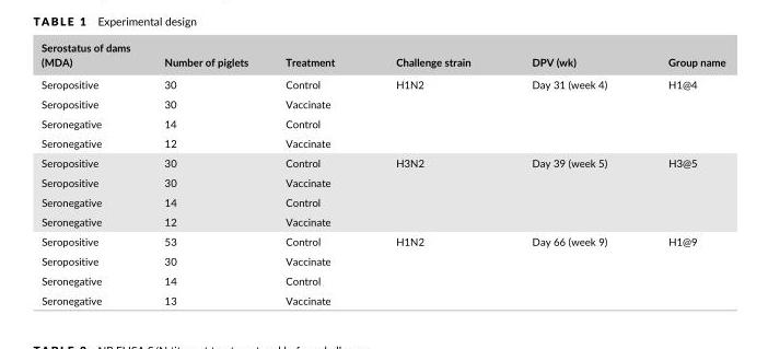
<table><thead><tr><td>Serostatus of dams (MDA)</td><td>Number of piglets</td><td>Treatment</td><td>Challenge strain</td><td>DPV (wk)</td><td>Group name</td></tr></thead><tbody><tr><td>Seropositive</td><td>30</td><td>Control</td><td rowspan="4">H1N2</td><td rowspan="4">Day 31 (week 4)</td><td rowspan="4">H1@4</td></tr><tr><td>Seropositive</td><td>30</td><td>Vaccinate</td></tr><tr><td>Seronegative</td><td>14</td><td>Control</td></tr><tr><td>Seronegative</td><td>12</td><td>Vaccinate</td></tr><tr><td>Seropositive</td><td>30</td><td>Control</td><td rowspan="4">H3N2</td><td rowspan="4">Day 39 (week 5)</td><td rowspan="4">H3@5</td></tr><tr><td>Seropositive</td><td>30</td><td>Vaccinate</td></tr><tr><td>Seronegative</td><td>14</td><td>Control</td></tr><tr><td>Seronegative</td><td>12</td><td>Vaccinate</td></tr><tr><td>Seropositive</td><td>53</td><td>Control</td><td rowspan="4">H1N2</td><td rowspan="4">Day 66 (week 9)</td><td rowspan="4">H1@9</td></tr><tr><td>Seropositive</td><td>30</td><td>Vaccinate</td></tr><tr><td>Seronegative</td><td>14</td><td>Control</td></tr><tr><td>Seronegative</td><td>13</td><td>Vaccinate</td></tr></tbody></table>